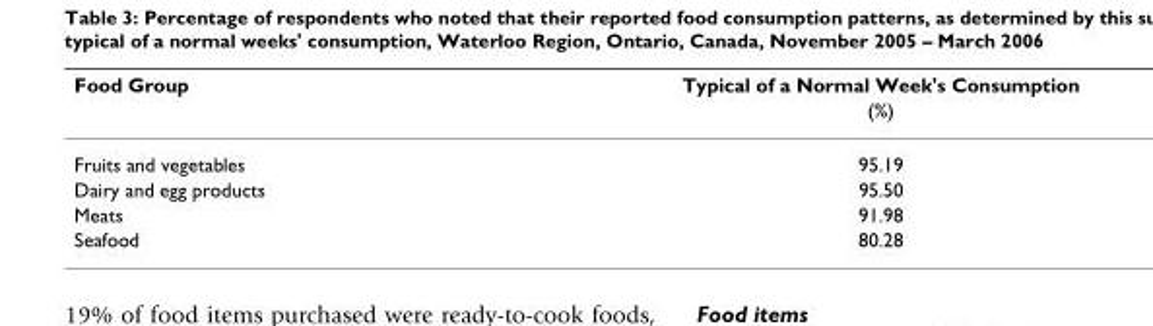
<table><thead><tr><td rowspan="2">Food Group</td><td rowspan="2">Typical of a Normal Week&#x27;s Consumption (%)</td></tr><tr></tr></thead><tbody><tr><td>Fruits and vegetables</td><td>95.19</td></tr><tr><td>Dairy and egg products</td><td>95.50</td></tr><tr><td>Meats</td><td>91.98</td></tr><tr><td>Seafood</td><td>80.28</td></tr></tbody></table>